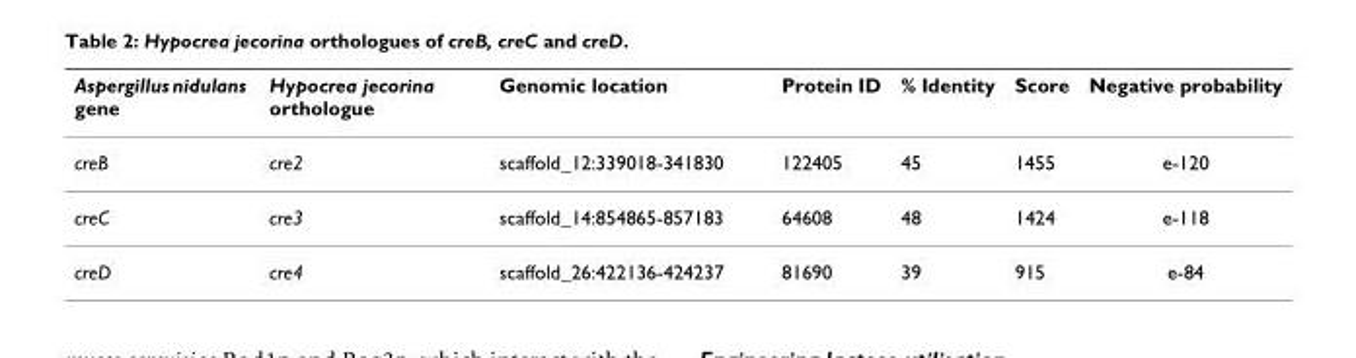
<table><thead><tr><td>Aspergillus nidulans gene</td><td>Hypocrea jecorina orthologue</td><td>Genomic location</td><td>Protein ID</td><td>% Identity</td><td>Score</td><td>Negative probability</td></tr></thead><tbody><tr><td>creB</td><td>cre2</td><td>scaffold_12:339018-341830</td><td>122405</td><td>45</td><td>1455</td><td>e-120</td></tr><tr><td>creC</td><td>cre3</td><td>scaffold_14:854865-857183</td><td>64608</td><td>48</td><td>1424</td><td>e-118</td></tr><tr><td>creD</td><td>cre4</td><td>scaffold_26:422136-424237</td><td>81690</td><td>39</td><td>915</td><td>e-84</td></tr></tbody></table>